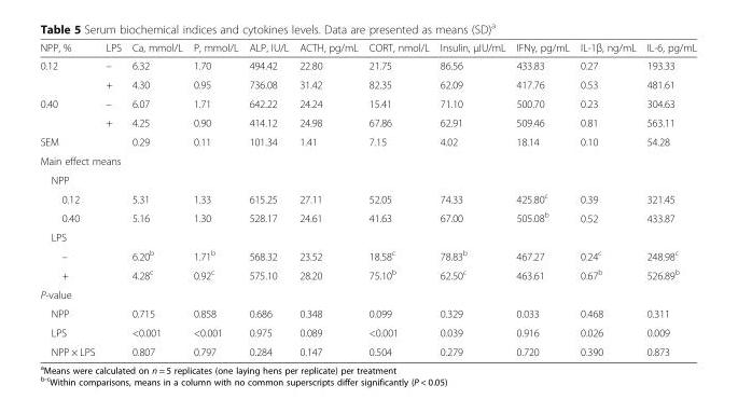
<table><thead><tr><td>NPP, %</td><td>LPS</td><td>Ca, mmol/L</td><td>P, mmol/L</td><td>ALP, IU/L</td><td>ACTH, pg/mL</td><td>CORT, nmol/L</td><td>Insulin, μIU/mL</td><td>IFNγ, pg/mL</td><td>IL-1β, ng/mL</td><td>IL-6, pg/mL</td></tr></thead><tbody><tr><td rowspan="2">0.12</td><td>–</td><td>6.32</td><td>1.70</td><td>494.42</td><td>22.80</td><td>21.75</td><td>86.56</td><td>433.83</td><td>0.27</td><td>193.33</td></tr><tr><td>+</td><td>4.30</td><td>0.95</td><td>736.08</td><td>31.42</td><td>82.35</td><td>62.09</td><td>417.76</td><td>0.53</td><td>481.61</td></tr><tr><td rowspan="2">0.40</td><td>–</td><td>6.07</td><td>1.71</td><td>642.22</td><td>24.24</td><td>15.41</td><td>71.10</td><td>500.70</td><td>0.23</td><td>304.63</td></tr><tr><td>+</td><td>4.25</td><td>0.90</td><td>414.12</td><td>24.98</td><td>67.86</td><td>62.91</td><td>509.46</td><td>0.81</td><td>563.11</td></tr><tr><td>SEM</td><td></td><td>0.29</td><td>0.11</td><td>101.34</td><td>1.41</td><td>7.15</td><td>4.02</td><td>18.14</td><td>0.10</td><td>54.28</td></tr><tr><td colspan="11">Main effect means</td></tr><tr><td colspan="11">NPP</td></tr><tr><td>0.12</td><td></td><td>5.31</td><td>1.33</td><td>615.25</td><td>27.11</td><td>52.05</td><td>74.33</td><td>425.80<sup>c</sup></td><td>0.39</td><td>321.45</td></tr><tr><td>0.40</td><td></td><td>5.16</td><td>1.30</td><td>528.17</td><td>24.61</td><td>41.63</td><td>67.00</td><td>505.08<sup>b</sup></td><td>0.52</td><td>433.87</td></tr><tr><td colspan="11">LPS</td></tr><tr><td>–</td><td></td><td>6.20<sup>b</sup></td><td>1.71<sup>b</sup></td><td>568.32</td><td>23.52</td><td>18.58<sup>c</sup></td><td>78.83<sup>b</sup></td><td>467.27</td><td>0.24<sup>c</sup></td><td>248.98<sup>c</sup></td></tr><tr><td>+</td><td></td><td>4.28<sup>c</sup></td><td>0.92<sup>c</sup></td><td>575.10</td><td>28.20</td><td>75.10<sup>b</sup></td><td>62.50<sup>c</sup></td><td>463.61</td><td>0.67<sup>b</sup></td><td>526.89<sup>b</sup></td></tr><tr><td colspan="11">P-value</td></tr><tr><td>NPP</td><td></td><td>0.715</td><td>0.858</td><td>0.686</td><td>0.348</td><td>0.099</td><td>0.329</td><td>0.033</td><td>0.468</td><td>0.311</td></tr><tr><td>LPS</td><td></td><td>&lt;0.001</td><td>&lt;0.001</td><td>0.975</td><td>0.089</td><td>&lt;0.001</td><td>0.039</td><td>0.916</td><td>0.026</td><td>0.009</td></tr><tr><td>NPP × LPS</td><td></td><td>0.807</td><td>0.797</td><td>0.284</td><td>0.147</td><td>0.504</td><td>0.279</td><td>0.720</td><td>0.390</td><td>0.873</td></tr></tbody></table>